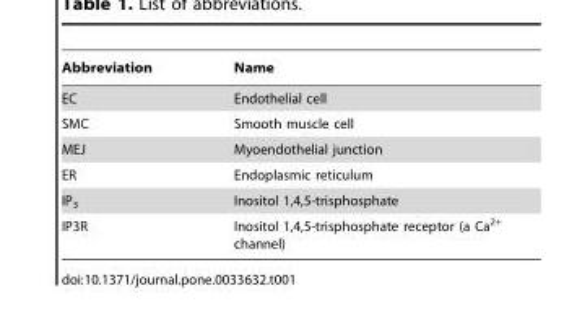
<table><thead><tr><td>Abbreviation</td><td>Name</td></tr></thead><tbody><tr><td>EC</td><td>Endothelial cell</td></tr><tr><td>SMC</td><td>Smooth muscle cell</td></tr><tr><td>MEJ</td><td>Myoendothelial junction</td></tr><tr><td>ER</td><td>Endoplasmic reticulum</td></tr><tr><td>IP<sub>3</sub></td><td>Inositol 1,4,5-trisphosphate</td></tr><tr><td>IP3R</td><td>Inositol 1,4,5-trisphosphate receptor (a Ca<sup>2+</sup> channel)</td></tr></tbody></table>